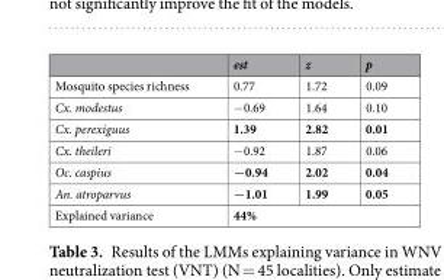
<table><thead><tr><td></td><td>est</td><td>z</td><td>p</td></tr></thead><tbody><tr><td>Mosquito species richness</td><td>0.77</td><td>1.72</td><td>0.09</td></tr><tr><td>Cx. modestus</td><td>−0.69</td><td>1.64</td><td>0.10</td></tr><tr><td>Cx. perexiguus</td><td>1.39</td><td>2.82</td><td>0.01</td></tr><tr><td>Cx. theileri</td><td>−0.92</td><td>1.87</td><td>0.06</td></tr><tr><td>Oc. caspius</td><td>−0.94</td><td>2.02</td><td>0.04</td></tr><tr><td>An. atroparvus</td><td>−1.01</td><td>1.99</td><td>0.05</td></tr><tr><td>Explained variance</td><td colspan="3">44%</td></tr></tbody></table>